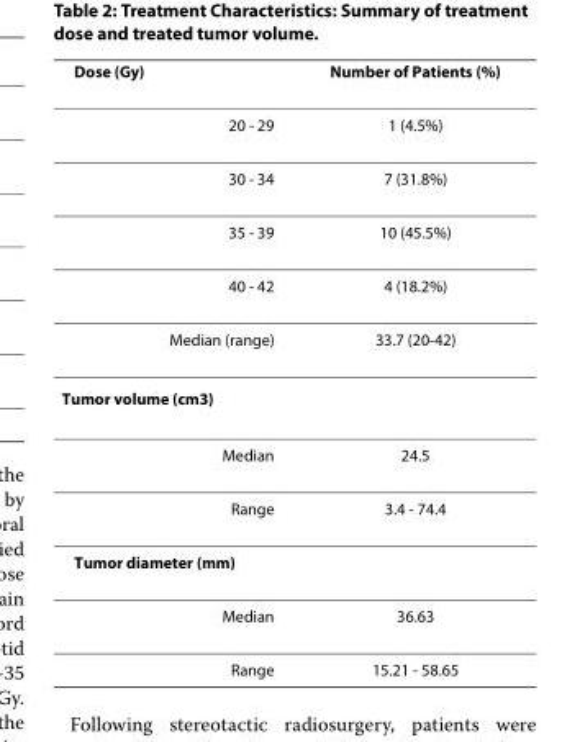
<table><thead><tr><td>Dose (Gy)</td><td>Number of Patients (%)</td></tr></thead><tbody><tr><td>20 - 29</td><td>1 (4.5%)</td></tr><tr><td>30 - 34</td><td>7 (31.8%)</td></tr><tr><td>35 - 39</td><td>10 (45.5%)</td></tr><tr><td>40 - 42</td><td>4 (18.2%)</td></tr><tr><td>Median (range)</td><td>33.7 (20-42)</td></tr><tr><td colspan="2">Tumor volume (cm<sup>3</sup>)</td></tr><tr><td>Median</td><td>24.5</td></tr><tr><td>Range</td><td>3.4 - 74.4</td></tr><tr><td colspan="2">Tumor diameter (mm)</td></tr><tr><td>Median</td><td>36.63</td></tr><tr><td>Range</td><td>15.21 - 58.65</td></tr></tbody></table>